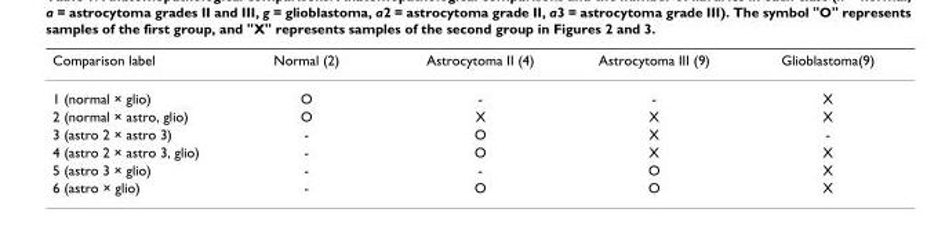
<table><thead><tr><td>Comparison label</td><td>Normal (2)</td><td>Astrocytoma II (4)</td><td>Astrocytoma III (9)</td><td>Glioblastoma(9)</td></tr></thead><tbody><tr><td>1 (normal × glio)</td><td>O</td><td>-</td><td>-</td><td>X</td></tr><tr><td>2 (normal × astro, glio)</td><td>O</td><td>X</td><td>X</td><td>X</td></tr><tr><td>3 (astro 2 × astro 3)</td><td>-</td><td>O</td><td>X</td><td>-</td></tr><tr><td>4 (astro 2 × astro 3, glio)</td><td>-</td><td>O</td><td>X</td><td>X</td></tr><tr><td>5 (astro 3 × glio)</td><td>-</td><td>-</td><td>O</td><td>X</td></tr><tr><td>6 (astro × glio)</td><td>-</td><td>O</td><td>O</td><td>X</td></tr></tbody></table>